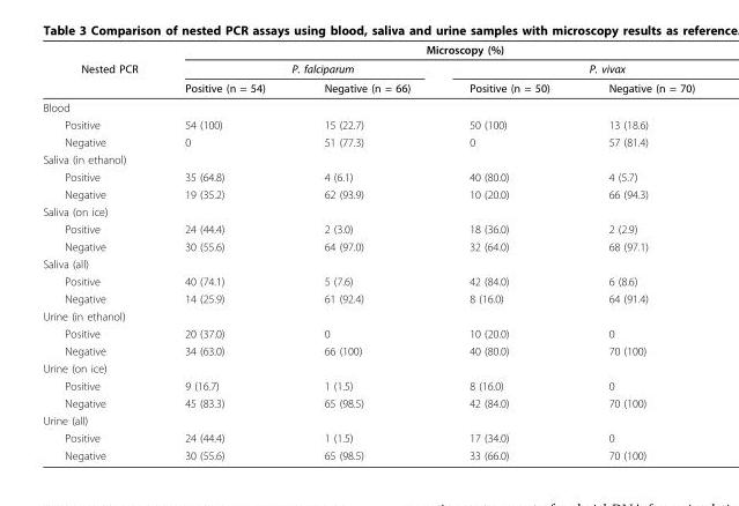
<table><thead><tr><td rowspan="3">Nested PCR</td><td colspan="4">Microscopy (%)</td></tr><tr><td colspan="2">P. falciparum</td><td colspan="2">P. vivax</td></tr><tr><td>Positive (n = 54)</td><td>Negative (n = 66)</td><td>Positive (n = 50)</td><td>Negative (n = 70)</td></tr></thead><tbody><tr><td colspan="5">Blood</td></tr><tr><td>Positive</td><td>54 (100)</td><td>15 (22.7)</td><td>50 (100)</td><td>13 (18.6)</td></tr><tr><td>Negative</td><td>0</td><td>51 (77.3)</td><td>0</td><td>57 (81.4)</td></tr><tr><td colspan="5">Saliva (in ethanol)</td></tr><tr><td>Positive</td><td>35 (64.8)</td><td>4 (6.1)</td><td>40 (80.0)</td><td>4 (5.7)</td></tr><tr><td>Negative</td><td>19 (35.2)</td><td>62 (93.9)</td><td>10 (20.0)</td><td>66 (94.3)</td></tr><tr><td colspan="5">Saliva (on ice)</td></tr><tr><td>Positive</td><td>24 (44.4)</td><td>2 (3.0)</td><td>18 (36.0)</td><td>2 (2.9)</td></tr><tr><td>Negative</td><td>30 (55.6)</td><td>64 (97.0)</td><td>32 (64.0)</td><td>68 (97.1)</td></tr><tr><td colspan="5">Saliva (all)</td></tr><tr><td>Positive</td><td>40 (74.1)</td><td>5 (7.6)</td><td>42 (84.0)</td><td>6 (8.6)</td></tr><tr><td>Negative</td><td>14 (25.9)</td><td>61 (92.4)</td><td>8 (16.0)</td><td>64 (91.4)</td></tr><tr><td colspan="5">Urine (in ethanol)</td></tr><tr><td>Positive</td><td>20 (37.0)</td><td>0</td><td>10 (20.0)</td><td>0</td></tr><tr><td>Negative</td><td>34 (63.0)</td><td>66 (100)</td><td>40 (80.0)</td><td>70 (100)</td></tr><tr><td colspan="5">Urine (on ice)</td></tr><tr><td>Positive</td><td>9 (16.7)</td><td>1 (1.5)</td><td>8 (16.0)</td><td>0</td></tr><tr><td>Negative</td><td>45 (83.3)</td><td>65 (98.5)</td><td>42 (84.0)</td><td>70 (100)</td></tr><tr><td colspan="5">Urine (all)</td></tr><tr><td>Positive</td><td>24 (44.4)</td><td>1 (1.5)</td><td>17 (34.0)</td><td>0</td></tr><tr><td>Negative</td><td>30 (55.6)</td><td>65 (98.5)</td><td>33 (66.0)</td><td>70 (100)</td></tr></tbody></table>